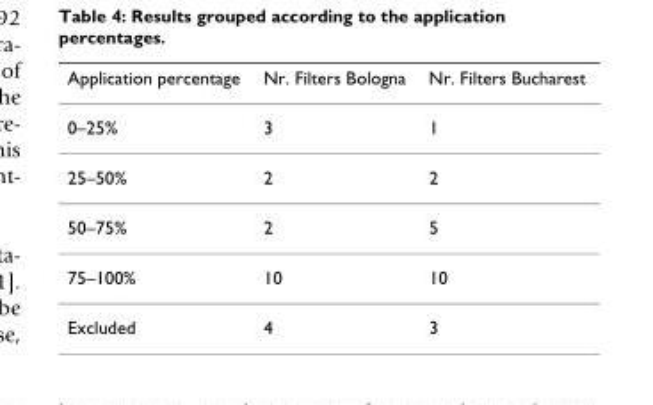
<table><thead><tr><td>Application percentage</td><td>Nr. Filters Bologna</td><td>Nr. Filters Bucharest</td></tr></thead><tbody><tr><td>0–25%</td><td>3</td><td>1</td></tr><tr><td>25–50%</td><td>2</td><td>2</td></tr><tr><td>50–75%</td><td>2</td><td>5</td></tr><tr><td>75–100%</td><td>10</td><td>10</td></tr><tr><td>Excluded</td><td>4</td><td>3</td></tr></tbody></table>